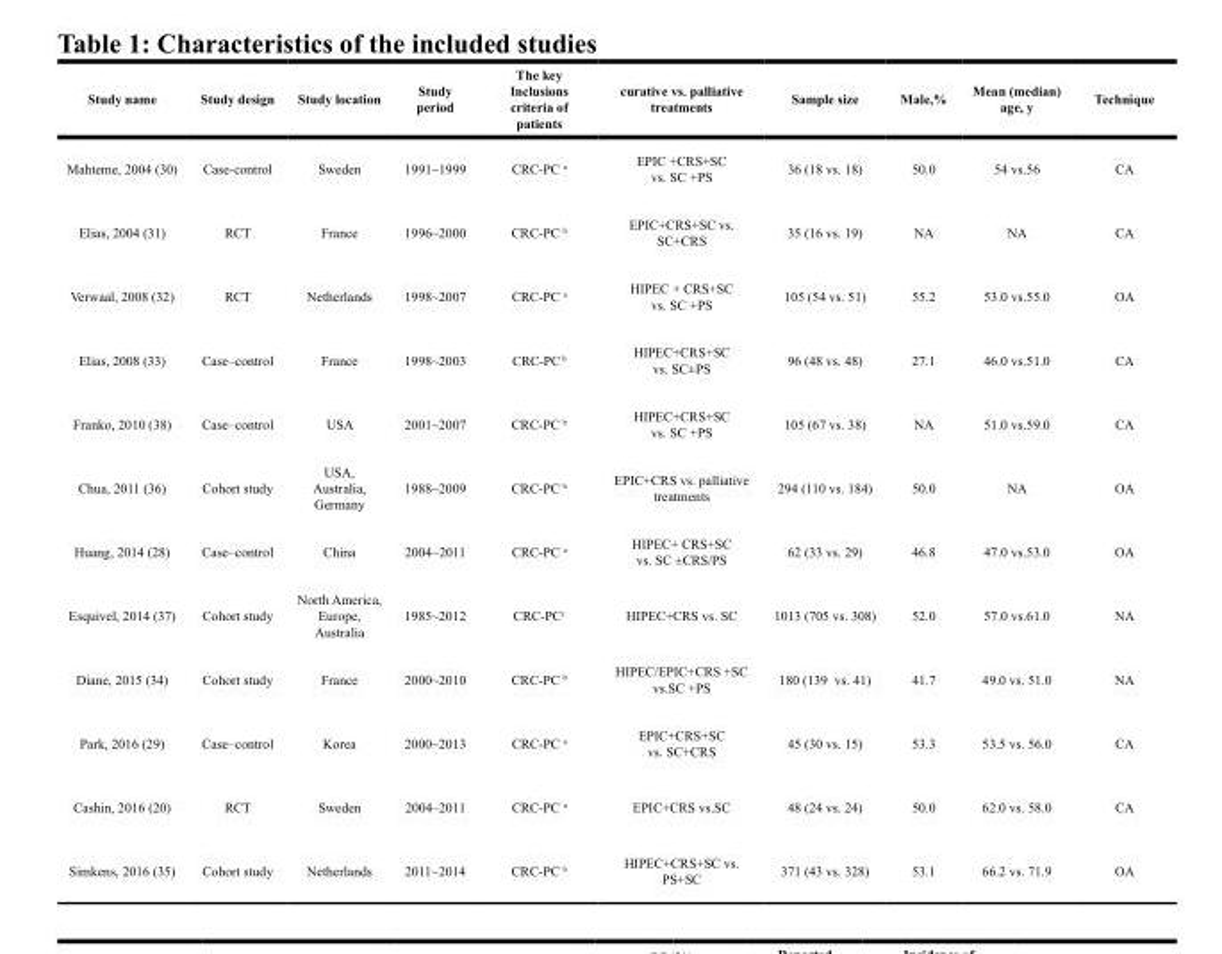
<table><thead><tr><td>Study name</td><td>Study design</td><td>Study location</td><td>Study period</td><td>The key Inclusions criteria of patients</td><td>curative vs. palliative treatments</td><td>Sample size</td><td>Male,%</td><td>Mean (median) age, y</td><td>Technique</td></tr></thead><tbody><tr><td>Mahteme, 2004 (30)</td><td>Case-control</td><td>Sweden</td><td>1991~1999</td><td>CRC-PC <sup>a</sup></td><td>EPIC +CRS+SC vs. SC +PS</td><td>36 (18 vs. 18)</td><td>50.0</td><td>54 vs.56</td><td>CA</td></tr><tr><td>Elias, 2004 (31)</td><td>RCT</td><td>France</td><td>1996~2000</td><td>CRC-PC <sup>b</sup></td><td>EPIC+CRS+SC vs. SC+CRS</td><td>35 (16 vs. 19)</td><td>NA</td><td>NA</td><td>CA</td></tr><tr><td>Verwaal, 2008 (32)</td><td>RCT</td><td>Netherlands</td><td>1998~2007</td><td>CRC-PC <sup>a</sup></td><td>HIPEC + CRS+SC vs. SC +PS</td><td>105 (54 vs. 51)</td><td>55.2</td><td>53.0 vs.55.0</td><td>OA</td></tr><tr><td>Elias, 2008 (33)</td><td>Case–control</td><td>France</td><td>1998~2003</td><td>CRC-PC <sup>b</sup></td><td>HIPEC+CRS+SC vs. SC±PS</td><td>96 (48 vs. 48)</td><td>27.1</td><td>46.0 vs.51.0</td><td>CA</td></tr><tr><td>Franko, 2010 (38)</td><td>Case–control</td><td>USA</td><td>2001~2007</td><td>CRC-PC <sup>b</sup></td><td>HIPEC+CRS+SC vs. SC +PS</td><td>105 (67 vs. 38)</td><td>NA</td><td>51.0 vs.59.0</td><td>CA</td></tr><tr><td>Chua, 2011 (36)</td><td>Cohort study</td><td>USA, Australia, Germany</td><td>1988~2009</td><td>CRC-PC <sup>b</sup></td><td>EPIC+CRS vs. palliative treatments</td><td>294 (110 vs. 184)</td><td>50.0</td><td>NA</td><td>OA</td></tr><tr><td>Huang, 2014 (28)</td><td>Case–control</td><td>China</td><td>2004~2011</td><td>CRC-PC <sup>a</sup></td><td>HIPEC+ CRS+SC vs. SC ±CRS/PS</td><td>62 (33 vs. 29)</td><td>46.8</td><td>47.0 vs.53.0</td><td>OA</td></tr><tr><td>Esquivel, 2014 (37)</td><td>Cohort study</td><td>North America, Europe, Australia</td><td>1985~2012</td><td>CRC-PC<sup>c</sup></td><td>HIPEC+CRS vs. SC</td><td>1013 (705 vs. 308)</td><td>52.0</td><td>57.0 vs.61.0</td><td>NA</td></tr><tr><td>Diane, 2015 (34)</td><td>Cohort study</td><td>France</td><td>2000~2010</td><td>CRC-PC <sup>b</sup></td><td>HIPEC/EPIC+CRS +SC vs.SC +PS</td><td>180 (139 vs. 41)</td><td>41.7</td><td>49.0 vs. 51.0</td><td>NA</td></tr><tr><td>Park, 2016 (29)</td><td>Case–control</td><td>Korea</td><td>2000~2013</td><td>CRC-PC <sup>a</sup></td><td>EPIC+CRS+SC vs. SC+CRS</td><td>45 (30 vs. 15)</td><td>53.3</td><td>53.5 vs. 56.0</td><td>CA</td></tr><tr><td>Cashin, 2016 (20)</td><td>RCT</td><td>Sweden</td><td>2004–2011</td><td>CRC-PC <sup>a</sup></td><td>EPIC+CRS vs.SC</td><td>48 (24 vs. 24)</td><td>50.0</td><td>62.0 vs. 58.0</td><td>CA</td></tr><tr><td>Simkens, 2016 (35)</td><td>Cohort study</td><td>Netherlands</td><td>2011~2014</td><td>CRC-PC <sup>b</sup></td><td>HIPEC+CRS+SC vs. PS+SC</td><td>371 (43 vs. 328)</td><td>53.1</td><td>66.2 vs. 71.9</td><td>OA</td></tr></tbody></table>